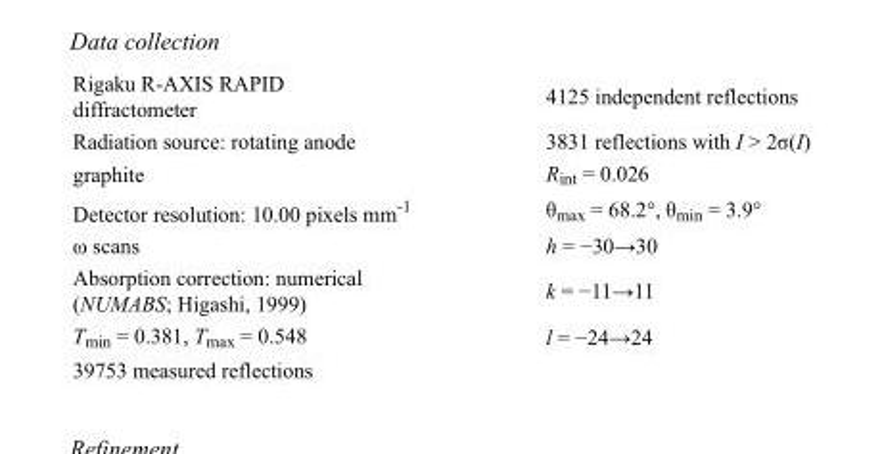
<table><tbody><tr><td>Rigaku R-AXIS RAPID diffractometer</td><td>4125 independent reflections</td></tr><tr><td>Radiation source: rotating anode</td><td>3831 reflections with I &gt; 2σ(I)</td></tr><tr><td>graphite</td><td>R<sub>int</sub> = 0.026</td></tr><tr><td>Detector resolution: 10.00 pixels mm<sup>-1</sup></td><td>θ<sub>max</sub> = 68.2°, θ<sub>min</sub> = 3.9°</td></tr><tr><td>ω scans</td><td>h = −30→30</td></tr><tr><td>Absorption correction: numerical (NUMABS; Higashi, 1999)</td><td>k = −11→11</td></tr><tr><td>T<sub>min</sub> = 0.381, T<sub>max</sub> = 0.548</td><td>l = −24→24</td></tr><tr><td>39753 measured reflections</td><td></td></tr></tbody></table>